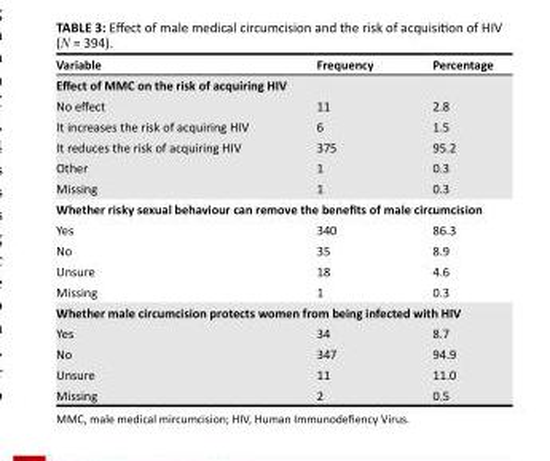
<table><thead><tr><td>Variable</td><td>Frequency</td><td>Percentage</td></tr></thead><tbody><tr><td colspan="3">Effect of MMC on the risk of acquiring HIV</td></tr><tr><td>No effect</td><td>11</td><td>2.8</td></tr><tr><td>It increases the risk of acquiring HIV</td><td>6</td><td>1.5</td></tr><tr><td>It reduces the risk of acquiring HIV</td><td>375</td><td>95.2</td></tr><tr><td>Other</td><td>1</td><td>0.3</td></tr><tr><td>Missing</td><td>1</td><td>0.3</td></tr><tr><td colspan="3">Whether risky sexual behaviour can remove the benefits of male circumcision</td></tr><tr><td>Yes</td><td>340</td><td>86.3</td></tr><tr><td>No</td><td>35</td><td>8.9</td></tr><tr><td>Unsure</td><td>18</td><td>4.6</td></tr><tr><td>Missing</td><td>1</td><td>0.3</td></tr><tr><td colspan="3">Whether male circumcision protects women from being infected with HIV</td></tr><tr><td>Yes</td><td>34</td><td>8.7</td></tr><tr><td>No</td><td>347</td><td>94.9</td></tr><tr><td>Unsure</td><td>11</td><td>11.0</td></tr><tr><td>Missing</td><td>2</td><td>0.5</td></tr></tbody></table>